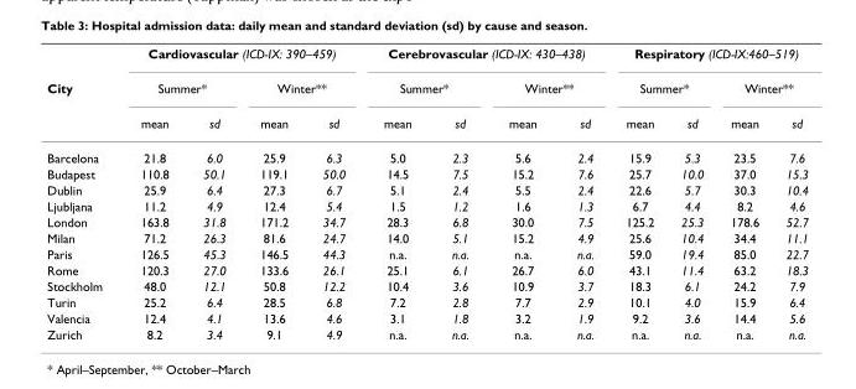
<table><thead><tr><td rowspan="3">City</td><td colspan="4">Cardiovascular (ICD-IX: 390–459)</td><td colspan="4">Cerebrovascular (ICD-IX: 430–438)</td><td colspan="4">Respiratory (ICD-IX:460–519)</td></tr><tr><td colspan="2">Summer*</td><td colspan="2">Winter**</td><td colspan="2">Summer*</td><td colspan="2">Winter**</td><td colspan="2">Summer*</td><td colspan="2">Winter**</td></tr><tr><td>mean</td><td>sd</td><td>mean</td><td>sd</td><td>mean</td><td>sd</td><td>mean</td><td>sd</td><td>mean</td><td>sd</td><td>mean</td><td>sd</td></tr></thead><tbody><tr><td>Barcelona</td><td>21.8</td><td>6.0</td><td>25.9</td><td>6.3</td><td>5.0</td><td>2.3</td><td>5.6</td><td>2.4</td><td>15.9</td><td>5.3</td><td>23.5</td><td>7.6</td></tr><tr><td>Budapest</td><td>110.8</td><td>50.1</td><td>119.1</td><td>50.0</td><td>14.5</td><td>7.5</td><td>15.2</td><td>7.6</td><td>25.7</td><td>10.0</td><td>37.0</td><td>15.3</td></tr><tr><td>Dublin</td><td>25.9</td><td>6.4</td><td>27.3</td><td>6.7</td><td>5.1</td><td>2.4</td><td>5.5</td><td>2.4</td><td>22.6</td><td>5.7</td><td>30.3</td><td>10.4</td></tr><tr><td>Ljubljana</td><td>11.2</td><td>4.9</td><td>12.4</td><td>5.4</td><td>1.5</td><td>1.2</td><td>1.6</td><td>1.3</td><td>6.7</td><td>4.4</td><td>8.2</td><td>4.6</td></tr><tr><td>London</td><td>163.8</td><td>31.8</td><td>171.2</td><td>34.7</td><td>28.3</td><td>6.8</td><td>30.0</td><td>7.5</td><td>125.2</td><td>25.3</td><td>178.6</td><td>52.7</td></tr><tr><td>Milan</td><td>71.2</td><td>26.3</td><td>81.6</td><td>24.7</td><td>14.0</td><td>5.1</td><td>15.2</td><td>4.9</td><td>25.6</td><td>10.4</td><td>34.4</td><td>11.1</td></tr><tr><td>Paris</td><td>126.5</td><td>45.3</td><td>146.5</td><td>44.3</td><td>n.a.</td><td>n.a.</td><td>n.a.</td><td>n.a.</td><td>59.0</td><td>19.4</td><td>85.0</td><td>22.7</td></tr><tr><td>Rome</td><td>120.3</td><td>27.0</td><td>133.6</td><td>26.1</td><td>25.1</td><td>6.1</td><td>26.7</td><td>6.0</td><td>43.1</td><td>11.4</td><td>63.2</td><td>18.3</td></tr><tr><td>Stockholm</td><td>48.0</td><td>12.1</td><td>50.8</td><td>12.2</td><td>10.4</td><td>3.6</td><td>10.9</td><td>3.7</td><td>18.3</td><td>6.1</td><td>24.2</td><td>7.9</td></tr><tr><td>Turin</td><td>25.2</td><td>6.4</td><td>28.5</td><td>6.8</td><td>7.2</td><td>2.8</td><td>7.7</td><td>2.9</td><td>10.1</td><td>4.0</td><td>15.9</td><td>6.4</td></tr><tr><td>Valencia</td><td>12.4</td><td>4.1</td><td>13.6</td><td>4.6</td><td>3.1</td><td>1.8</td><td>3.2</td><td>1.9</td><td>9.2</td><td>3.6</td><td>14.4</td><td>5.6</td></tr><tr><td>Zurich</td><td>8.2</td><td>3.4</td><td>9.1</td><td>4.9</td><td>n.a.</td><td>n.a.</td><td>n.a.</td><td>n.a.</td><td>n.a.</td><td>n.a.</td><td>n.a.</td><td>n.a.</td></tr></tbody></table>